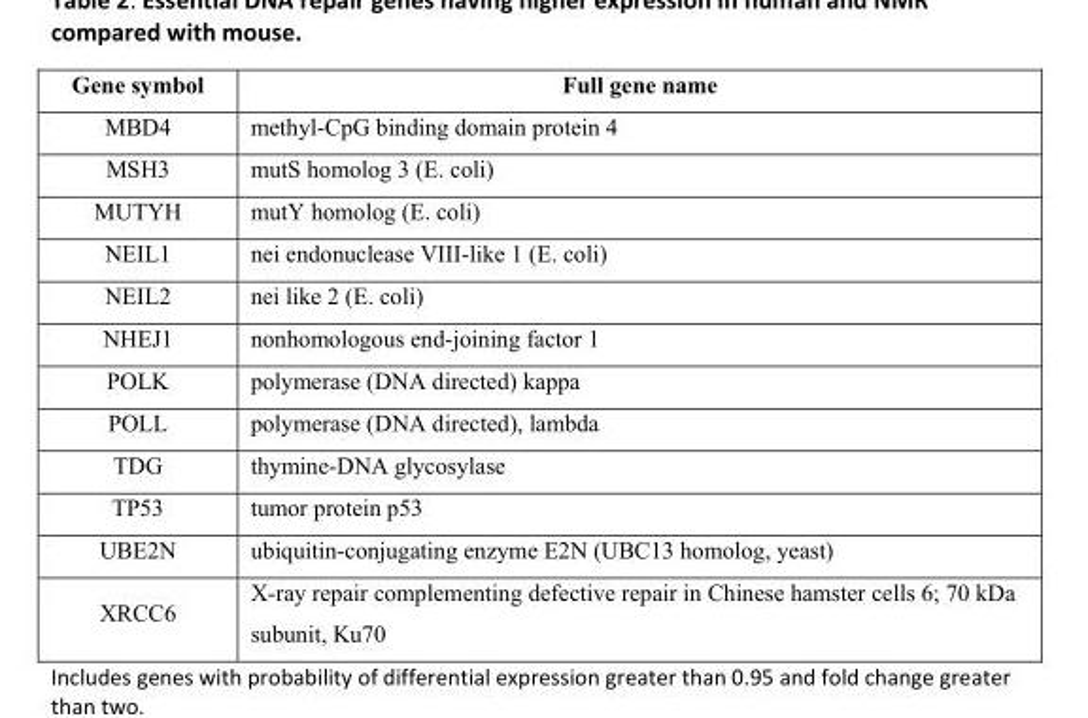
<table><thead><tr><td>Gene symbol</td><td>Full gene name</td></tr></thead><tbody><tr><td>MBD4</td><td>methyl-CpG binding domain protein 4</td></tr><tr><td>MSH3</td><td>mutS homolog 3 (E. coli)</td></tr><tr><td>MUTYH</td><td>mutY homolog (E. coli)</td></tr><tr><td>NEIL1</td><td>nei endonuclease VIII-like 1 (E. coli)</td></tr><tr><td>NEIL2</td><td>nei like 2 (E. coli)</td></tr><tr><td>NHEJ1</td><td>nonhomologous end-joining factor 1</td></tr><tr><td>POLK</td><td>polymerase (DNA directed) kappa</td></tr><tr><td>POLL</td><td>polymerase (DNA directed), lambda</td></tr><tr><td>TDG</td><td>thymine-DNA glycosylase</td></tr><tr><td>TP53</td><td>tumor protein p53</td></tr><tr><td>UBE2N</td><td>ubiquitin-conjugating enzyme E2N (UBC13 homolog, yeast)</td></tr><tr><td>XRCC6</td><td>X-ray repair complementing defective repair in Chinese hamster cells 6; 70 kDa subunit, Ku70</td></tr></tbody></table>